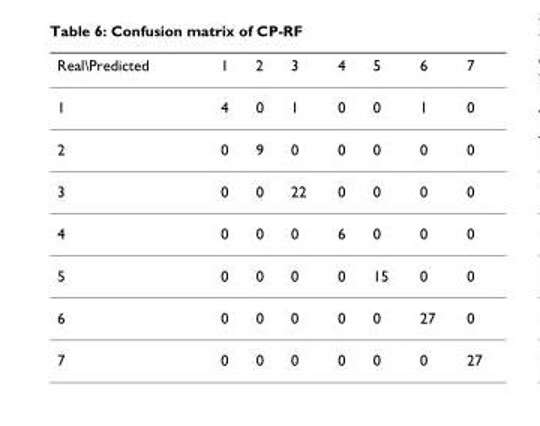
<table><thead><tr><td>Real\Predicted</td><td>1</td><td>2</td><td>3</td><td>4</td><td>5</td><td>6</td><td>7</td></tr></thead><tbody><tr><td>1</td><td>4</td><td>0</td><td>1</td><td>0</td><td>0</td><td>1</td><td>0</td></tr><tr><td>2</td><td>0</td><td>9</td><td>0</td><td>0</td><td>0</td><td>0</td><td>0</td></tr><tr><td>3</td><td>0</td><td>0</td><td>22</td><td>0</td><td>0</td><td>0</td><td>0</td></tr><tr><td>4</td><td>0</td><td>0</td><td>0</td><td>6</td><td>0</td><td>0</td><td>0</td></tr><tr><td>5</td><td>0</td><td>0</td><td>0</td><td>0</td><td>15</td><td>0</td><td>0</td></tr><tr><td>6</td><td>0</td><td>0</td><td>0</td><td>0</td><td>0</td><td>27</td><td>0</td></tr><tr><td>7</td><td>0</td><td>0</td><td>0</td><td>0</td><td>0</td><td>0</td><td>27</td></tr></tbody></table>